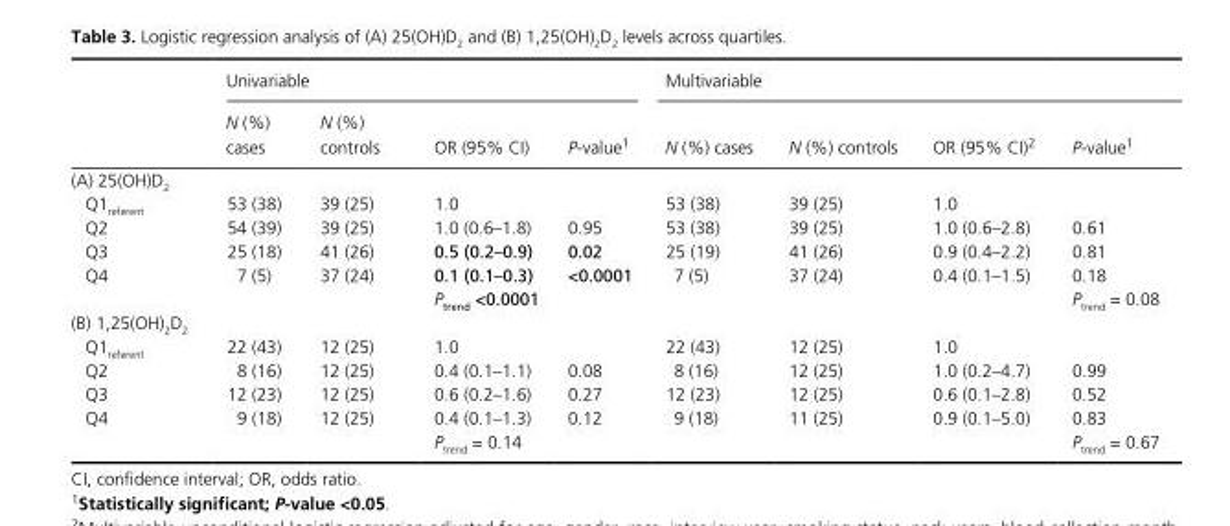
<table><thead><tr><td rowspan="2"></td><td colspan="4">Univariable</td><td colspan="4">Multivariable</td></tr><tr><td>N (%) cases</td><td>N (%) controls</td><td>OR (95% CI)</td><td>P- value1</td><td>N (%) cases</td><td>N (%) controls</td><td>OR (95% CI)2</td><td>P- value1</td></tr></thead><tbody><tr><td colspan="9">(A) 25(OH)D<sub>2</sub></td></tr><tr><td>Q1<sub>referent</sub></td><td>53 (38)</td><td>39 (25)</td><td>1.0</td><td></td><td>53 (38)</td><td>39 (25)</td><td>1.0</td><td></td></tr><tr><td>Q2</td><td>54 (39)</td><td>39 (25)</td><td>1.0 (0.6–1.8)</td><td>0.95</td><td>53 (38)</td><td>39 (25)</td><td>1.0 (0.6–2.8)</td><td>0.61</td></tr><tr><td>Q3</td><td>25 (18)</td><td>41 (26)</td><td>0.5 (0.2–0.9)</td><td>0.02</td><td>25 (19)</td><td>41 (26)</td><td>0.9 (0.4–2.2)</td><td>0.81</td></tr><tr><td rowspan="2">Q4</td><td>7 (5)</td><td>37 (24)</td><td>0.1 (0.1–0.3)</td><td>&lt;0.0001</td><td>7 (5)</td><td>37 (24)</td><td>0.4 (0.1–1.5)</td><td>0.18</td></tr><tr><td></td><td></td><td colspan="2">P<sub>trend</sub> &lt;0.0001</td><td></td><td></td><td></td><td>P<sub>trend</sub> = 0.08</td></tr><tr><td colspan="9">(B) 1,25(OH)<sub>2</sub>D<sub>2</sub></td></tr><tr><td>Q1<sub>referent</sub></td><td>22 (43)</td><td>12 (25)</td><td>1.0</td><td></td><td>22 (43)</td><td>12 (25)</td><td>1.0</td><td></td></tr><tr><td>Q2</td><td>8 (16)</td><td>12 (25)</td><td>0.4 (0.1–1.1)</td><td>0.08</td><td>8 (16)</td><td>12 (25)</td><td>1.0 (0.2–4.7)</td><td>0.99</td></tr><tr><td>Q3</td><td>12 (23)</td><td>12 (25)</td><td>0.6 (0.2–1.6)</td><td>0.27</td><td>12 (23)</td><td>12 (25)</td><td>0.6 (0.1–2.8)</td><td>0.52</td></tr><tr><td rowspan="2">Q4</td><td>9 (18)</td><td>12 (25)</td><td>0.4 (0.1–1.3)</td><td>0.12</td><td>9 (18)</td><td>11 (25)</td><td>0.9 (0.1–5.0)</td><td>0.83</td></tr><tr><td></td><td></td><td colspan="2">P<sub>trend</sub> = 0.14</td><td></td><td></td><td></td><td>P<sub>trend</sub> = 0.67</td></tr></tbody></table>